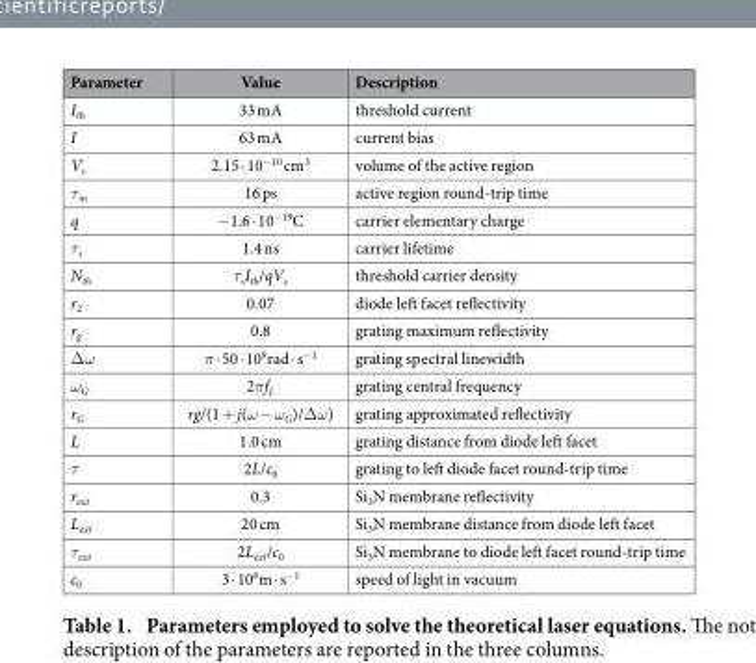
<table><thead><tr><td>Parameter</td><td>Value</td><td>Description</td></tr></thead><tbody><tr><td>I<sub>th</sub></td><td>33 mA</td><td>threshold current</td></tr><tr><td>I</td><td>63 mA</td><td>current bias</td></tr><tr><td>V<sub>c</sub></td><td>2.15 · 10<sup>−10</sup> cm<sup>3</sup></td><td>volume of the active region</td></tr><tr><td>τ<sub>in</sub></td><td>16 ps</td><td>active region round-trip time</td></tr><tr><td>q</td><td>− 1.6 · 10<sup>−19</sup>C</td><td>carrier elementary charge</td></tr><tr><td>τ<sub>s</sub></td><td>1.4 ns</td><td>carrier lifetime</td></tr><tr><td>N<sub>th</sub></td><td>τ<sub>s</sub>I<sub>th</sub>/qV<sub>c</sub></td><td>threshold carrier density</td></tr><tr><td>r<sub>2</sub></td><td>0.07</td><td>diode left facet reflectivity</td></tr><tr><td>r<sub>g</sub></td><td>0.8</td><td>grating maximum reflectivity</td></tr><tr><td>Δ ω</td><td>π · 50 · 10<sup>9</sup>rad · s<sup>−1</sup></td><td>grating spectral linewidth</td></tr><tr><td>ω<sub>G</sub></td><td>2πf<sub>L</sub></td><td>grating central frequency</td></tr><tr><td>r<sub>G</sub></td><td>rg/(1 + j(ω − ω<sub>G</sub>)/Δ ω)</td><td>grating approximated reflectivity</td></tr><tr><td>L</td><td>1.0 cm</td><td>grating distance from diode left facet</td></tr><tr><td>τ</td><td>2L/c<sub>0</sub></td><td>grating to left diode facet round-trip time</td></tr><tr><td>r<sub>ext</sub></td><td>0.3</td><td>Si<sub>3</sub>N membrane reflectivity</td></tr><tr><td>L<sub>ext</sub></td><td>20 cm</td><td>Si<sub>3</sub>N membrane distance from diode left facet</td></tr><tr><td>τ<sub>ext</sub></td><td>2L<sub>ext</sub>/c<sub>0</sub></td><td>Si<sub>3</sub>N membrane to diode left facet round-trip time</td></tr><tr><td>c<sub>0</sub></td><td>3 · 10<sup>8</sup>m · s<sup>−1</sup></td><td>speed of light in vacuum</td></tr></tbody></table>